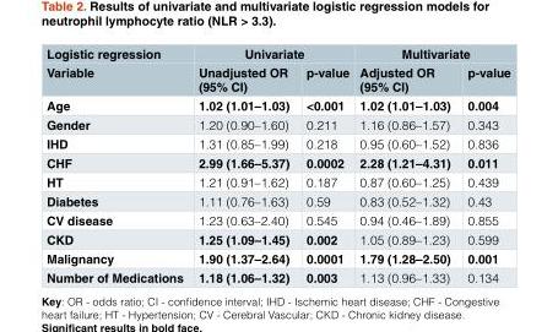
<table><thead><tr><td rowspan="2">Logistic regression Variable</td><td colspan="2">Univariate</td><td colspan="2">Multivariate</td></tr><tr><td>Unadjusted OR (95% CI)</td><td>p-value</td><td>Adjusted OR (95% CI)</td><td>p-value</td></tr></thead><tbody><tr><td>Age</td><td>1.02 (1.01–1.03)</td><td>&lt;0.001</td><td>1.02 (1.01–1.03)</td><td>0.004</td></tr><tr><td>Gender</td><td>1.20 (0.90–1.60)</td><td>0.211</td><td>1.16 (0.86–1.57)</td><td>0.343</td></tr><tr><td>IHD</td><td>1.31 (0.85–1.99)</td><td>0.218</td><td>0.95 (0.60–1.52)</td><td>0.836</td></tr><tr><td>CHF</td><td>2.99 (1.66–5.37)</td><td>0.0002</td><td>2.28 (1.21–4.31)</td><td>0.011</td></tr><tr><td>HT</td><td>1.21 (0.91–1.62)</td><td>0.187</td><td>0.87 (0.60–1.25)</td><td>0.439</td></tr><tr><td>Diabetes</td><td>1.11 (0.76–1.63)</td><td>0.59</td><td>0.83 (0.52–1.32)</td><td>0.43</td></tr><tr><td>CV disease</td><td>1.23 (0.63–2.40)</td><td>0.545</td><td>0.94 (0.46–1.89)</td><td>0.855</td></tr><tr><td>CKD</td><td>1.25 (1.09–1.45)</td><td>0.002</td><td>1.05 (0.89–1.23)</td><td>0.599</td></tr><tr><td>Malignancy</td><td>1.90 (1.37–2.64)</td><td>0.0001</td><td>1.79 (1.28–2.50)</td><td>0.001</td></tr><tr><td>Number of Medications</td><td>1.18 (1.06–1.32)</td><td>0.003</td><td>1.13 (0.96–1.33)</td><td>0.134</td></tr></tbody></table>